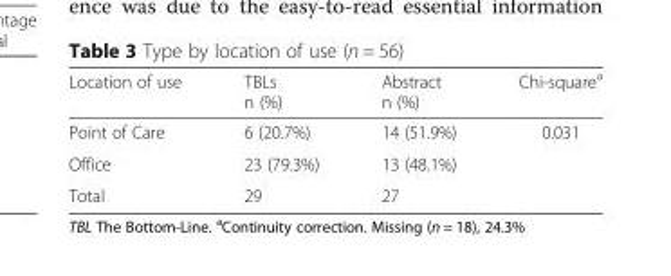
<table><thead><tr><td>Location of use</td><td>TBLs n (%)</td><td>Abstract n (%)</td><td>Chi-square<sup>a</sup></td></tr></thead><tbody><tr><td>Point of Care</td><td>6 (20.7%)</td><td>14 (51.9%)</td><td>0.031</td></tr><tr><td>Office</td><td>23 (79.3%)</td><td>13 (48.1%)</td><td></td></tr><tr><td>Total</td><td>29</td><td>27</td><td></td></tr></tbody></table>